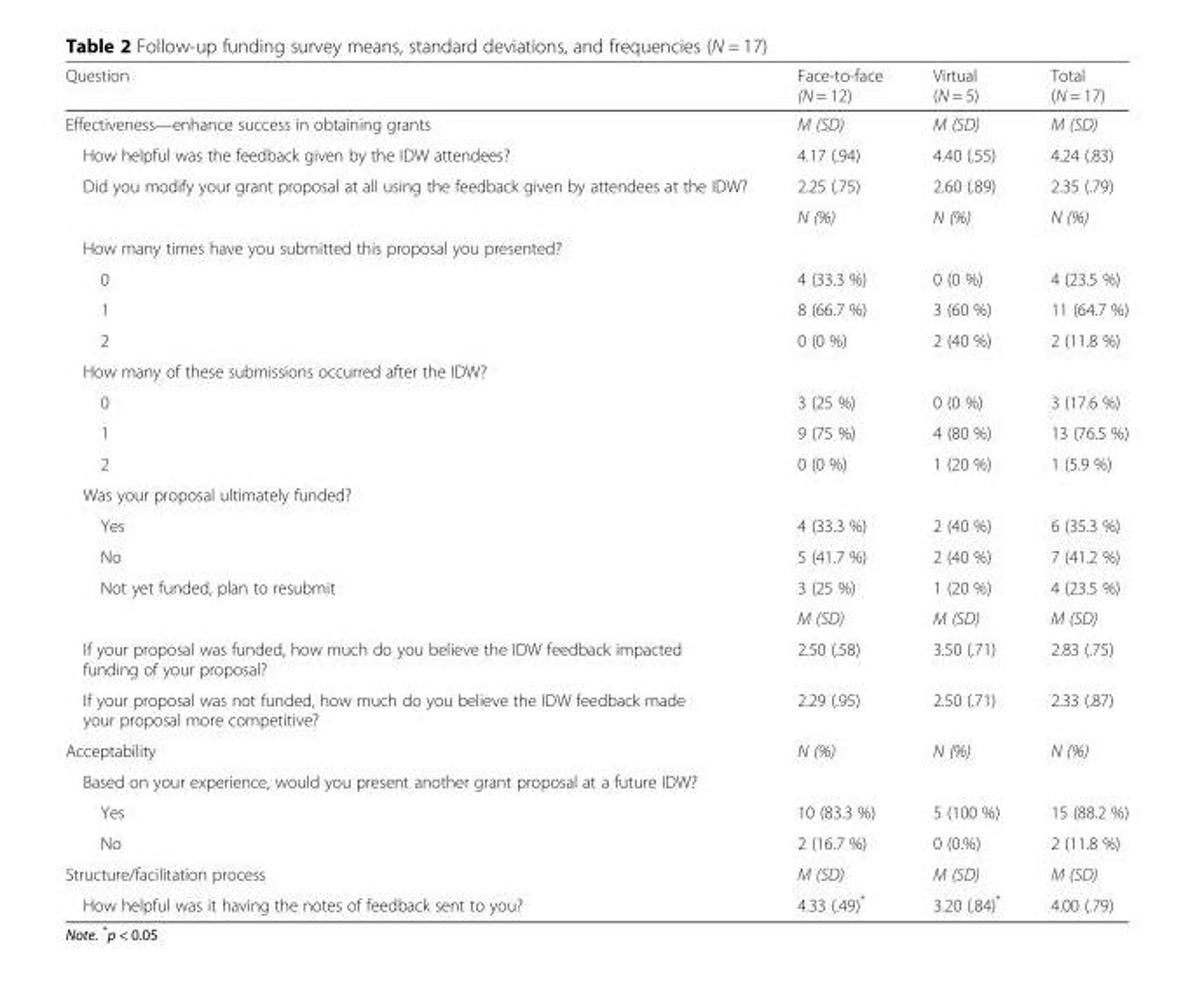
<table><thead><tr><td>Question</td><td>Face-to-face (N = 12)</td><td>Virtual (N = 5)</td><td>Total (N = 17)</td></tr></thead><tbody><tr><td>Effectiveness—enhance success in obtaining grants</td><td>M (SD)</td><td>M (SD)</td><td>M (SD)</td></tr><tr><td>How helpful was the feedback given by the IDW attendees?</td><td>4.17 (.94)</td><td>4.40 (.55)</td><td>4.24 (.83)</td></tr><tr><td rowspan="2">Did you modify your grant proposal at all using the feedback given by attendees at the IDW?</td><td>2.25 (.75)</td><td>2.60 (.89)</td><td>2.35 (.79)</td></tr><tr><td>N (%)</td><td>N (%)</td><td>N (%)</td></tr><tr><td colspan="4">How many times have you submitted this proposal you presented?</td></tr><tr><td>0</td><td>4 (33.3 %)</td><td>0 (0 %)</td><td>4 (23.5 %)</td></tr><tr><td>1</td><td>8 (66.7 %)</td><td>3 (60 %)</td><td>11 (64.7 %)</td></tr><tr><td>2</td><td>0 (0 %)</td><td>2 (40 %)</td><td>2 (11.8 %)</td></tr><tr><td colspan="4">How many of these submissions occurred after the IDW?</td></tr><tr><td>0</td><td>3 (25 %)</td><td>0 (0 %)</td><td>3 (17.6 %)</td></tr><tr><td>1</td><td>9 (75 %)</td><td>4 (80 %)</td><td>13 (76.5 %)</td></tr><tr><td>2</td><td>0 (0 %)</td><td>1 (20 %)</td><td>1 (5.9 %)</td></tr><tr><td colspan="4">Was your proposal ultimately funded?</td></tr><tr><td>Yes</td><td>4 (33.3 %)</td><td>2 (40 %)</td><td>6 (35.3 %)</td></tr><tr><td>No</td><td>5 (41.7 %)</td><td>2 (40 %)</td><td>7 (41.2 %)</td></tr><tr><td rowspan="2">Not yet funded, plan to resubmit</td><td>3 (25 %)</td><td>1 (20 %)</td><td>4 (23.5 %)</td></tr><tr><td>M (SD)</td><td>M (SD)</td><td>M (SD)</td></tr><tr><td>If your proposal was funded, how much do you believe the IDW feedback impacted funding of your proposal?</td><td>2.50 (.58)</td><td>3.50 (.71)</td><td>2.83 (.75)</td></tr><tr><td>If your proposal was not funded, how much do you believe the IDW feedback made your proposal more competitive?</td><td>2.29 (.95)</td><td>2.50 (.71)</td><td>2.33 (.87)</td></tr><tr><td>Acceptability</td><td>N (%)</td><td>N (%)</td><td>N (%)</td></tr><tr><td colspan="4">Based on your experience, would you present another grant proposal at a future IDW?</td></tr><tr><td>Yes</td><td>10 (83.3 %)</td><td>5 (100 %)</td><td>15 (88.2 %)</td></tr><tr><td>No</td><td>2 (16.7 %)</td><td>0 (0.%)</td><td>2 (11.8 %)</td></tr><tr><td>Structure/facilitation process</td><td>M (SD)</td><td>M (SD)</td><td>M (SD)</td></tr><tr><td>How helpful was it having the notes of feedback sent to you?</td><td>4.33 (.49)*</td><td>3.20 (.84)*</td><td>4.00 (.79)</td></tr></tbody></table>